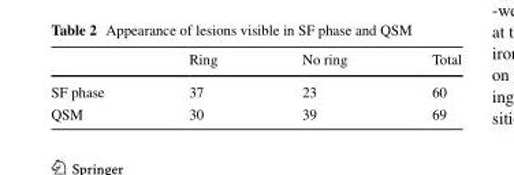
<table><thead><tr><td></td><td>Ring</td><td>No ring</td><td>Total</td></tr></thead><tbody><tr><td>SF phase</td><td>37</td><td>23</td><td>60</td></tr><tr><td>QSM</td><td>30</td><td>39</td><td>69</td></tr></tbody></table>